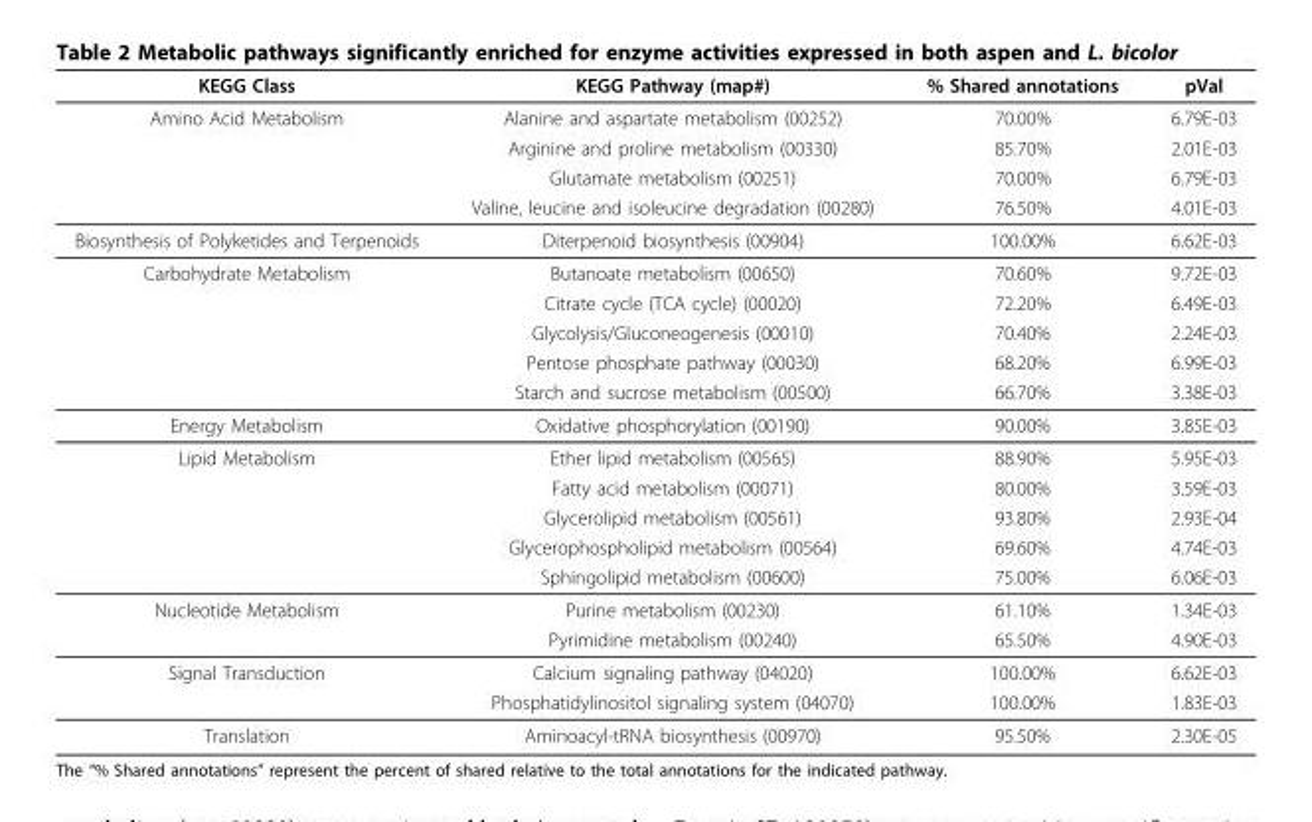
<table><thead><tr><td>KEGG Class</td><td>KEGG Pathway (map#)</td><td>% Shared annotations</td><td>pVal</td></tr></thead><tbody><tr><td rowspan="4">Amino Acid Metabolism</td><td>Alanine and aspartate metabolism (00252)</td><td>70.00%</td><td>6.79E-03</td></tr><tr><td>Arginine and proline metabolism (00330)</td><td>85.70%</td><td>2.01E-03</td></tr><tr><td>Glutamate metabolism (00251)</td><td>70.00%</td><td>6.79E-03</td></tr><tr><td>Valine, leucine and isoleucine degradation (00280)</td><td>76.50%</td><td>4.01E-03</td></tr><tr><td>Biosynthesis of Polyketides and Terpenoids</td><td>Diterpenoid biosynthesis (00904)</td><td>100.00%</td><td>6.62E-03</td></tr><tr><td rowspan="5">Carbohydrate Metabolism</td><td>Butanoate metabolism (00650)</td><td>70.60%</td><td>9.72E-03</td></tr><tr><td>Citrate cycle (TCA cycle) (00020)</td><td>72.20%</td><td>6.49E-03</td></tr><tr><td>Glycolysis/Gluconeogenesis (00010)</td><td>70.40%</td><td>2.24E-03</td></tr><tr><td>Pentose phosphate pathway (00030)</td><td>68.20%</td><td>6.99E-03</td></tr><tr><td>Starch and sucrose metabolism (00500)</td><td>66.70%</td><td>3.38E-03</td></tr><tr><td>Energy Metabolism</td><td>Oxidative phosphorylation (00190)</td><td>90.00%</td><td>3.85E-03</td></tr><tr><td rowspan="5">Lipid Metabolism</td><td>Ether lipid metabolism (00565)</td><td>88.90%</td><td>5.95E-03</td></tr><tr><td>Fatty acid metabolism (00071)</td><td>80.00%</td><td>3.59E-03</td></tr><tr><td>Glycerolipid metabolism (00561)</td><td>93.80%</td><td>2.93E-04</td></tr><tr><td>Glycerophospholipid metabolism (00564)</td><td>69.60%</td><td>4.74E-03</td></tr><tr><td>Sphingolipid metabolism (00600)</td><td>75.00%</td><td>6.06E-03</td></tr><tr><td rowspan="2">Nucleotide Metabolism</td><td>Purine metabolism (00230)</td><td>61.10%</td><td>1.34E-03</td></tr><tr><td>Pyrimidine metabolism (00240)</td><td>65.50%</td><td>4.90E-03</td></tr><tr><td rowspan="2">Signal Transduction</td><td>Calcium signaling pathway (04020)</td><td>100.00%</td><td>6.62E-03</td></tr><tr><td>Phosphatidylinositol signaling system (04070)</td><td>100.00%</td><td>1.83E-03</td></tr><tr><td>Translation</td><td>Aminoacyl-tRNA biosynthesis (00970)</td><td>95.50%</td><td>2.30E-05</td></tr></tbody></table>